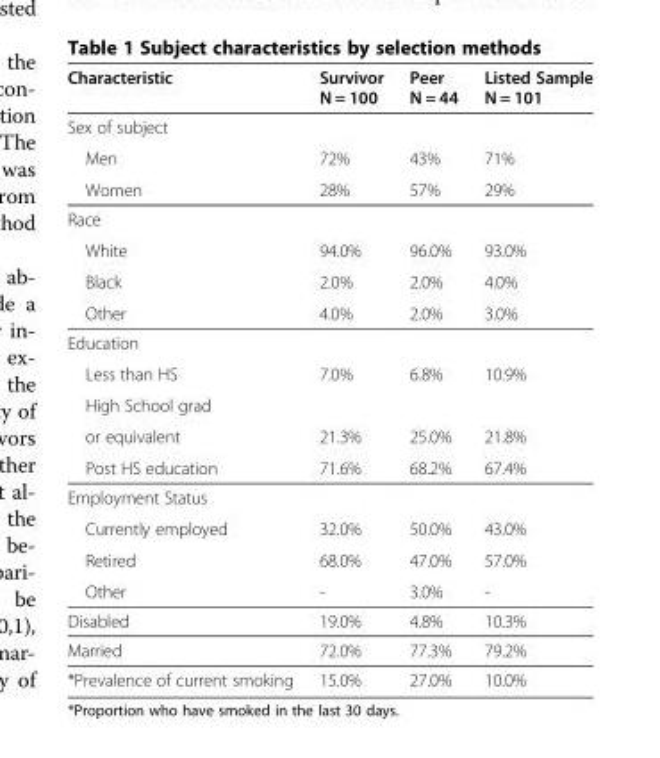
<table><thead><tr><td>Characteristic</td><td>Survivor N = 100</td><td>Peer N = 44</td><td>Listed Sample N = 101</td></tr></thead><tbody><tr><td colspan="4">Sex of subject</td></tr><tr><td>Men</td><td>72%</td><td>43%</td><td>71%</td></tr><tr><td>Women</td><td>28%</td><td>57%</td><td>29%</td></tr><tr><td colspan="4">Race</td></tr><tr><td>White</td><td>94.0%</td><td>96.0%</td><td>93.0%</td></tr><tr><td>Black</td><td>2.0%</td><td>2.0%</td><td>4.0%</td></tr><tr><td>Other</td><td>4.0%</td><td>2.0%</td><td>3.0%</td></tr><tr><td colspan="4">Education</td></tr><tr><td>Less than HS</td><td>7.0%</td><td>6.8%</td><td>10.9%</td></tr><tr><td colspan="4">High School grad</td></tr><tr><td>or equivalent</td><td>21.3%</td><td>25.0%</td><td>21.8%</td></tr><tr><td>Post HS education</td><td>71.6%</td><td>68.2%</td><td>67.4%</td></tr><tr><td colspan="4">Employment Status</td></tr><tr><td>Currently employed</td><td>32.0%</td><td>50.0%</td><td>43.0%</td></tr><tr><td>Retired</td><td>68.0%</td><td>47.0%</td><td>57.0%</td></tr><tr><td>Other</td><td>-</td><td>3.0%</td><td>-</td></tr><tr><td>Disabled</td><td>19.0%</td><td>4.8%</td><td>10.3%</td></tr><tr><td>Married</td><td>72.0%</td><td>77.3%</td><td>79.2%</td></tr><tr><td>*Prevalence of current smoking</td><td>15.0%</td><td>27.0%</td><td>10.0%</td></tr></tbody></table>